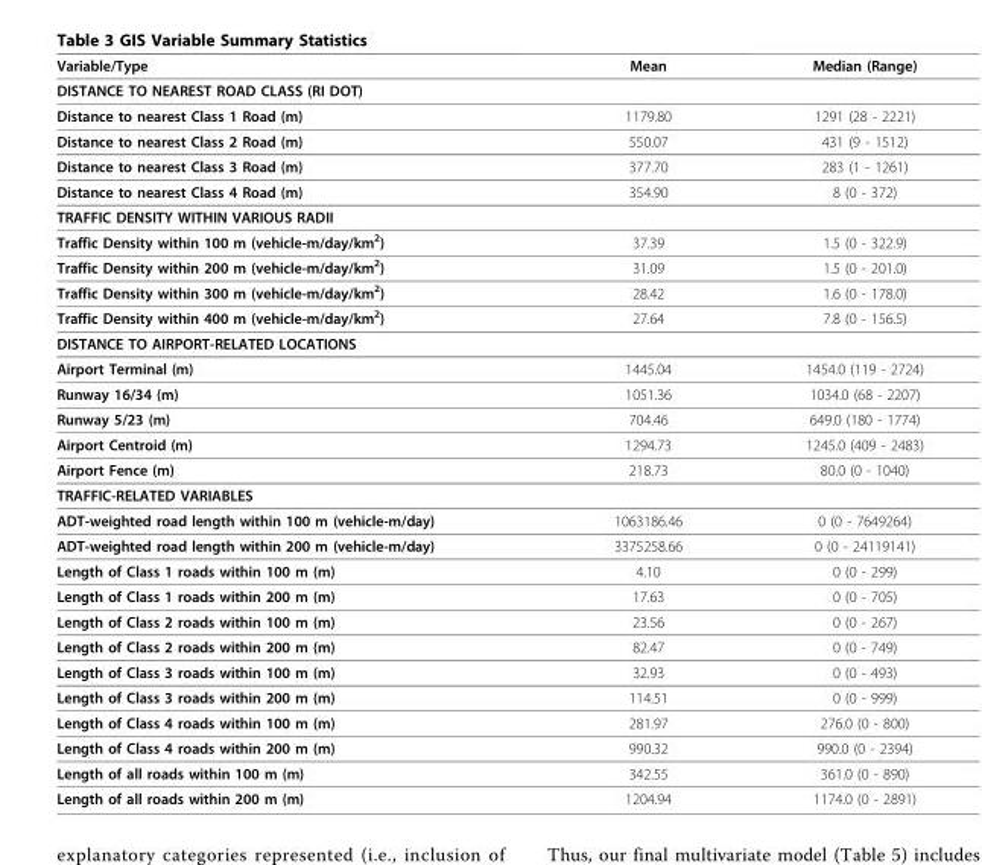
<table><thead><tr><td>Variable/Type</td><td>Mean</td><td>Median (Range)</td></tr></thead><tbody><tr><td colspan="3">DISTANCE TO NEAREST ROAD CLASS (RI DOT)</td></tr><tr><td>Distance to nearest Class 1 Road (m)</td><td>1179.80</td><td>1291 (28 - 2221)</td></tr><tr><td>Distance to nearest Class 2 Road (m)</td><td>550.07</td><td>431 (9 - 1512)</td></tr><tr><td>Distance to nearest Class 3 Road (m)</td><td>377.70</td><td>283 (1 - 1261)</td></tr><tr><td>Distance to nearest Class 4 Road (m)</td><td>354.90</td><td>8 (0 - 372)</td></tr><tr><td colspan="3">TRAFFIC DENSITY WITHIN VARIOUS RADII</td></tr><tr><td>Traffic Density within 100 m (vehicle-m/day/km<sup>2</sup>)</td><td>37.39</td><td>1.5 (0 - 322.9)</td></tr><tr><td>Traffic Density within 200 m (vehicle-m/day/km<sup>2</sup>)</td><td>31.09</td><td>1.5 (0 - 201.0)</td></tr><tr><td>Traffic Density within 300 m (vehicle-m/day/km<sup>2</sup>)</td><td>28.42</td><td>1.6 (0 - 178.0)</td></tr><tr><td>Traffic Density within 400 m (vehicle-m/day/km<sup>2</sup>)</td><td>27.64</td><td>7.8 (0 - 156.5)</td></tr><tr><td colspan="3">DISTANCE TO AIRPORT-RELATED LOCATIONS</td></tr><tr><td>Airport Terminal (m)</td><td>1445.04</td><td>1454.0 (119 - 2724)</td></tr><tr><td>Runway 16/34 (m)</td><td>1051.36</td><td>1034.0 (68 - 2207)</td></tr><tr><td>Runway 5/23 (m)</td><td>704.46</td><td>649.0 (180 - 1774)</td></tr><tr><td>Airport Centroid (m)</td><td>1294.73</td><td>1245.0 (409 - 2483)</td></tr><tr><td>Airport Fence (m)</td><td>218.73</td><td>80.0 (0 - 1040)</td></tr><tr><td colspan="3">TRAFFIC-RELATED VARIABLES</td></tr><tr><td>ADT-weighted road length within 100 m (vehicle-m/day)</td><td>1063186.46</td><td>0 (0 - 7649264)</td></tr><tr><td>ADT-weighted road length within 200 m (vehicle-m/day)</td><td>3375258.66</td><td>0 (0 - 24119141)</td></tr><tr><td>Length of Class 1 roads within 100 m (m)</td><td>4.10</td><td>0 (0 - 299)</td></tr><tr><td>Length of Class 1 roads within 200 m (m)</td><td>17.63</td><td>0 (0 - 705)</td></tr><tr><td>Length of Class 2 roads within 100 m (m)</td><td>23.56</td><td>0 (0 - 267)</td></tr><tr><td>Length of Class 2 roads within 200 m (m)</td><td>82.47</td><td>0 (0 - 749)</td></tr><tr><td>Length of Class 3 roads within 100 m (m)</td><td>32.93</td><td>0 (0 - 493)</td></tr><tr><td>Length of Class 3 roads within 200 m (m)</td><td>114.51</td><td>0 (0 - 999)</td></tr><tr><td>Length of Class 4 roads within 100 m (m)</td><td>281.97</td><td>276.0 (0 - 800)</td></tr><tr><td>Length of Class 4 roads within 200 m (m)</td><td>990.32</td><td>990.0 (0 - 2394)</td></tr><tr><td>Length of all roads within 100 m (m)</td><td>342.55</td><td>361.0 (0 - 890)</td></tr><tr><td>Length of all roads within 200 m (m)</td><td>1204.94</td><td>1174.0 (0 - 2891)</td></tr></tbody></table>